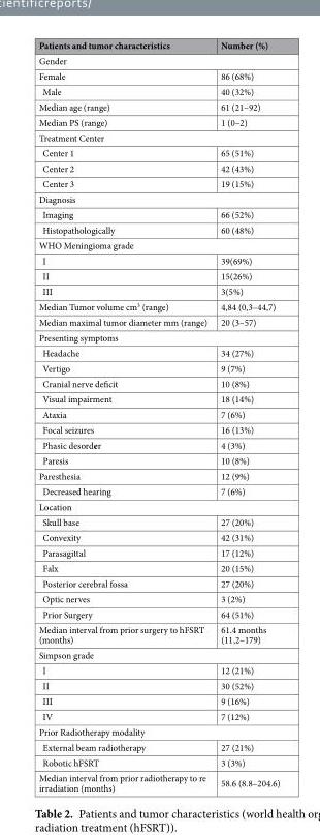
<table><thead><tr><td>Patients and tumor characteristics</td><td>Number (%)</td></tr></thead><tbody><tr><td colspan="2">Gender</td></tr><tr><td>Female</td><td>86 (68%)</td></tr><tr><td>Male</td><td>40 (32%)</td></tr><tr><td>Median age (range)</td><td>61 (21–92)</td></tr><tr><td>Median PS (range)</td><td>1 (0–2)</td></tr><tr><td colspan="2">Treatment Center</td></tr><tr><td>Center 1</td><td>65 (51%)</td></tr><tr><td>Center 2</td><td>42 (43%)</td></tr><tr><td>Center 3</td><td>19 (15%)</td></tr><tr><td colspan="2">Diagnosis</td></tr><tr><td>Imaging</td><td>66 (52%)</td></tr><tr><td>Histopathologically</td><td>60 (48%)</td></tr><tr><td colspan="2">WHO Meningioma grade</td></tr><tr><td>I</td><td>39(69%)</td></tr><tr><td>II</td><td>15(26%)</td></tr><tr><td>III</td><td>3(5%)</td></tr><tr><td>Median Tumor volume cm<sup>3</sup> (range)</td><td>4,84 (0,3–44,7)</td></tr><tr><td>Median maximal tumor diameter mm (range)</td><td>20 (3–57)</td></tr><tr><td colspan="2">Presenting symptoms</td></tr><tr><td>Headache</td><td>34 (27%)</td></tr><tr><td>Vertigo</td><td>9 (7%)</td></tr><tr><td>Cranial nerve deficit</td><td>10 (8%)</td></tr><tr><td>Visual impairment</td><td>18 (14%)</td></tr><tr><td>Ataxia</td><td>7 (6%)</td></tr><tr><td>Focal seizures</td><td>16 (13%)</td></tr><tr><td>Phasic desorder</td><td>4 (3%)</td></tr><tr><td>Paresis</td><td>10 (8%)</td></tr><tr><td>Paresthesia</td><td>12 (9%)</td></tr><tr><td>Decreased hearing</td><td>7 (6%)</td></tr><tr><td colspan="2">Location</td></tr><tr><td>Skull base</td><td>27 (20%)</td></tr><tr><td>Convexity</td><td>42 (31%)</td></tr><tr><td>Parasagittal</td><td>17 (12%)</td></tr><tr><td>Falx</td><td>20 (15%)</td></tr><tr><td>Posterior cerebral fossa</td><td>27 (20%)</td></tr><tr><td>Optic nerves</td><td>3 (2%)</td></tr><tr><td>Prior Surgery</td><td>64 (51%)</td></tr><tr><td>Median interval from prior surgery to hFSRT (months)</td><td>61.4 months (11,2–179)</td></tr><tr><td colspan="2">Simpson grade</td></tr><tr><td>I</td><td>12 (21%)</td></tr><tr><td>II</td><td>30 (52%)</td></tr><tr><td>III</td><td>9 (16%)</td></tr><tr><td>IV</td><td>7 (12%)</td></tr><tr><td colspan="2">Prior Radiotherapy modality</td></tr><tr><td>External beam radiotherapy</td><td>27 (21%)</td></tr><tr><td>Robotic hFSRT</td><td>3 (3%)</td></tr><tr><td>Median interval from prior radiotherapy to re irradiation (months)</td><td>58.6 (8.8–204.6)</td></tr></tbody></table>